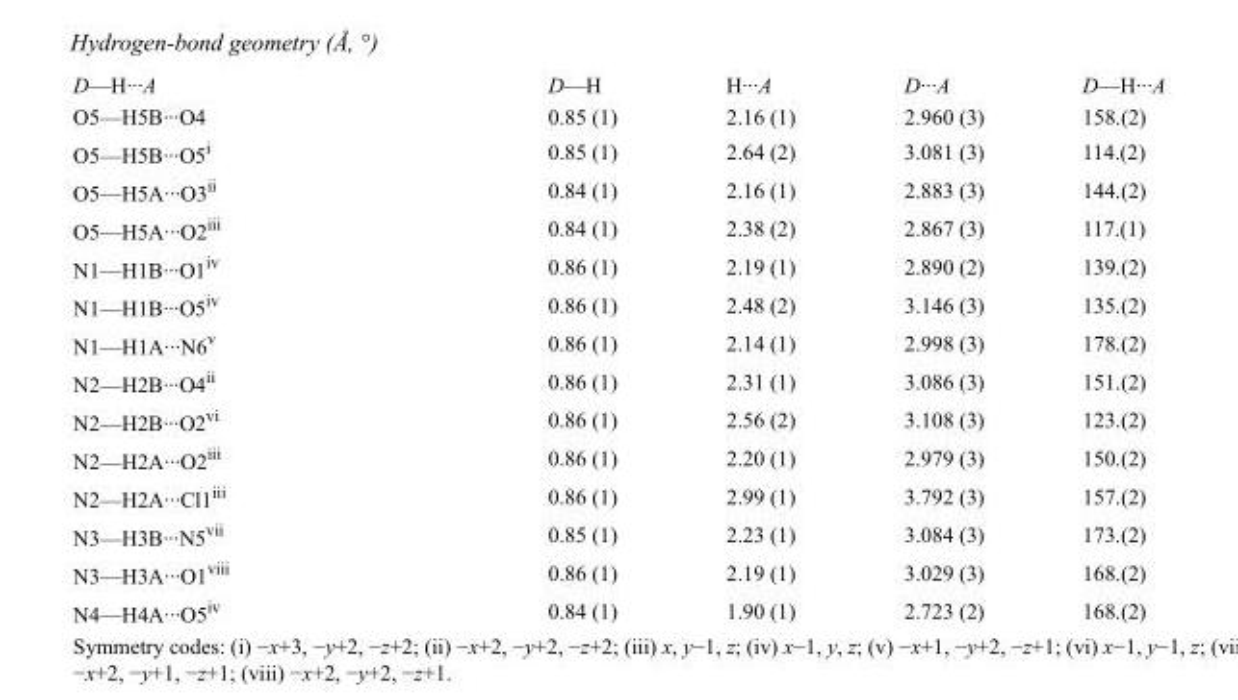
<table><tbody><tr><td>D—H···A</td><td>D—H</td><td>H···A</td><td>D···A</td><td>D—H···A</td></tr><tr><td>O5—H5B···O4</td><td>0.85 (1)</td><td>2.16 (1)</td><td>2.960 (3)</td><td>158.(2)</td></tr><tr><td>O5—H5B···O5<sup>i</sup></td><td>0.85 (1)</td><td>2.64 (2)</td><td>3.081 (3)</td><td>114.(2)</td></tr><tr><td>O5—H5A···O3<sup>ii</sup></td><td>0.84 (1)</td><td>2.16 (1)</td><td>2.883 (3)</td><td>144.(2)</td></tr><tr><td>O5—H5A···O2<sup>iii</sup></td><td>0.84 (1)</td><td>2.38 (2)</td><td>2.867 (3)</td><td>117.(1)</td></tr><tr><td>N1—H1B···O1<sup>iv</sup></td><td>0.86 (1)</td><td>2.19 (1)</td><td>2.890 (2)</td><td>139.(2)</td></tr><tr><td>N1—H1B···O5<sup>iv</sup></td><td>0.86 (1)</td><td>2.48 (2)</td><td>3.146 (3)</td><td>135.(2)</td></tr><tr><td>N1—H1A···N6<sup>v</sup></td><td>0.86 (1)</td><td>2.14 (1)</td><td>2.998 (3)</td><td>178.(2)</td></tr><tr><td>N2—H2B···O4<sup>ii</sup></td><td>0.86 (1)</td><td>2.31 (1)</td><td>3.086 (3)</td><td>151.(2)</td></tr><tr><td>N2—H2B···O2<sup>vi</sup></td><td>0.86 (1)</td><td>2.56 (2)</td><td>3.108 (3)</td><td>123.(2)</td></tr><tr><td>N2—H2A···O2<sup>iii</sup></td><td>0.86 (1)</td><td>2.20 (1)</td><td>2.979 (3)</td><td>150.(2)</td></tr><tr><td>N2—H2A···Cl1<sup>iii</sup></td><td>0.86 (1)</td><td>2.99 (1)</td><td>3.792 (3)</td><td>157.(2)</td></tr><tr><td>N3—H3B···N5<sup>vii</sup></td><td>0.85 (1)</td><td>2.23 (1)</td><td>3.084 (3)</td><td>173.(2)</td></tr><tr><td>N3—H3A···O1<sup>viii</sup></td><td>0.86 (1)</td><td>2.19 (1)</td><td>3.029 (3)</td><td>168.(2)</td></tr><tr><td>N4—H4A···O5<sup>iv</sup></td><td>0.84 (1)</td><td>1.90 (1)</td><td>2.723 (2)</td><td>168.(2)</td></tr></tbody></table>